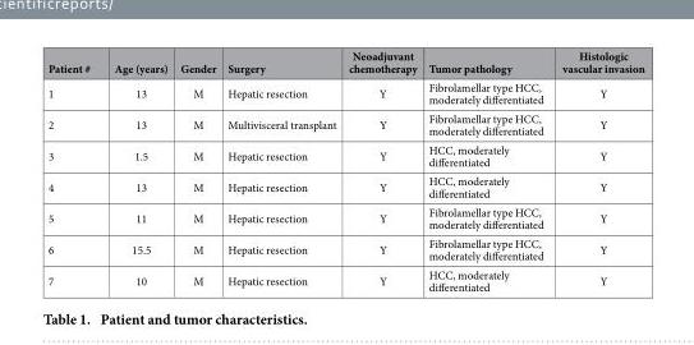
<table><thead><tr><td>Patient #</td><td>Age (years)</td><td>Gender</td><td>Surgery</td><td>Neoadjuvant chemotherapy</td><td>Tumor pathology</td><td>Histologic vascular invasion</td></tr></thead><tbody><tr><td>1</td><td>13</td><td>M</td><td>Hepatic resection</td><td>Y</td><td>Fibrolamellar type HCC, moderately differentiated</td><td>Y</td></tr><tr><td>2</td><td>13</td><td>M</td><td>Multivisceral transplant</td><td>Y</td><td>Fibrolamellar type HCC, moderately differentiated</td><td>Y</td></tr><tr><td>3</td><td>1.5</td><td>M</td><td>Hepatic resection</td><td>Y</td><td>HCC, moderately differentiated</td><td>Y</td></tr><tr><td>4</td><td>13</td><td>M</td><td>Hepatic resection</td><td>Y</td><td>HCC, moderately differentiated</td><td>Y</td></tr><tr><td>5</td><td>11</td><td>M</td><td>Hepatic resection</td><td>Y</td><td>Fibrolamellar type HCC, moderately differentiated</td><td>Y</td></tr><tr><td>6</td><td>15.5</td><td>M</td><td>Hepatic resection</td><td>Y</td><td>Fibrolamellar type HCC, moderately differentiated</td><td>Y</td></tr><tr><td>7</td><td>10</td><td>M</td><td>Hepatic resection</td><td>Y</td><td>HCC, moderately differentiated</td><td>Y</td></tr></tbody></table>